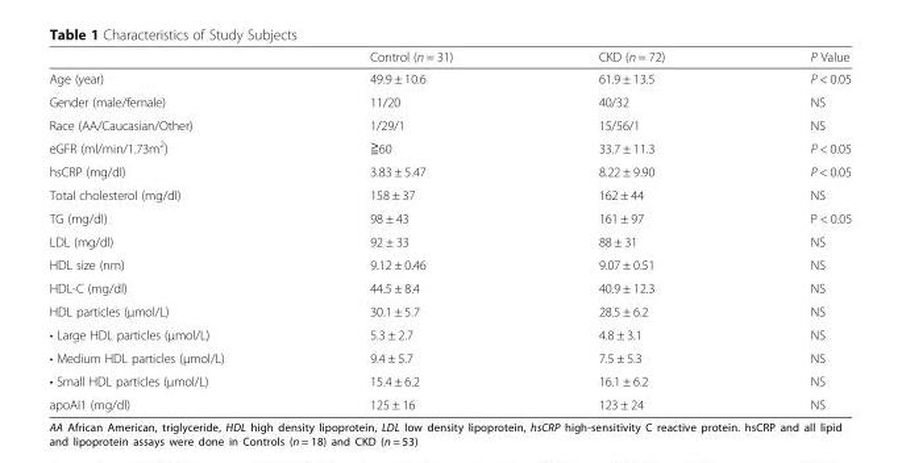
<table><thead><tr><td></td><td>Control (n = 31)</td><td>CKD (n = 72)</td><td>P Value</td></tr></thead><tbody><tr><td>Age (year)</td><td>49.9 ± 10.6</td><td>61.9 ± 13.5</td><td>P &lt; 0.05</td></tr><tr><td>Gender (male/female)</td><td>11/20</td><td>40/32</td><td>NS</td></tr><tr><td>Race (AA/Caucasian/Other)</td><td>1/29/1</td><td>15/56/1</td><td>NS</td></tr><tr><td>eGFR (ml/min/1.73m<sup>2</sup>)</td><td>≧60</td><td>33.7 ± 11.3</td><td>P &lt; 0.05</td></tr><tr><td>hsCRP (mg/dl)</td><td>3.83 ± 5.47</td><td>8.22 ± 9.90</td><td>P &lt; 0.05</td></tr><tr><td>Total cholesterol (mg/dl)</td><td>158 ± 37</td><td>162 ± 44</td><td>NS</td></tr><tr><td>TG (mg/dl)</td><td>98 ± 43</td><td>161 ± 97</td><td>P &lt; 0.05</td></tr><tr><td>LDL (mg/dl)</td><td>92 ± 33</td><td>88 ± 31</td><td>NS</td></tr><tr><td>HDL size (nm)</td><td>9.12 ± 0.46</td><td>9.07 ± 0.51</td><td>NS</td></tr><tr><td>HDL-C (mg/dl)</td><td>44.5 ± 8.4</td><td>40.9 ± 12.3</td><td>NS</td></tr><tr><td>HDL particles (μmol/L)</td><td>30.1 ± 5.7</td><td>28.5 ± 6.2</td><td>NS</td></tr><tr><td>• Large HDL particles (μmol/L)</td><td>5.3 ± 2.7</td><td>4.8 ± 3.1</td><td>NS</td></tr><tr><td>• Medium HDL particles (μmol/L)</td><td>9.4 ± 5.7</td><td>7.5 ± 5.3</td><td>NS</td></tr><tr><td>• Small HDL particles (μmol/L)</td><td>15.4 ± 6.2</td><td>16.1 ± 6.2</td><td>NS</td></tr><tr><td>apoAI1 (mg/dl)</td><td>125 ± 16</td><td>123 ± 24</td><td>NS</td></tr></tbody></table>